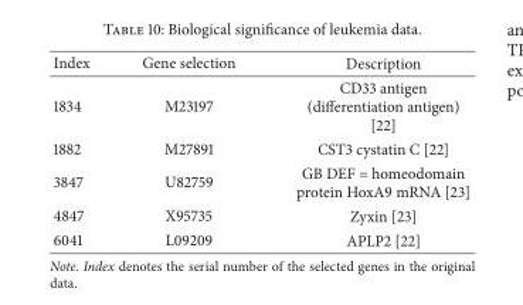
<table><thead><tr><td>Index</td><td>Gene selection</td><td>Description</td></tr></thead><tbody><tr><td>1834</td><td>M23197</td><td>CD33 antigen (differentiation antigen) [22]</td></tr><tr><td>1882</td><td>M27891</td><td>CST3 cystatin C [22]</td></tr><tr><td>3847</td><td>U82759</td><td>GB DEF = homeodomain protein HoxA9 mRNA [23]</td></tr><tr><td>4847</td><td>X95735</td><td>Zyxin [23]</td></tr><tr><td>6041</td><td>L09209</td><td>APLP2 [22]</td></tr></tbody></table>